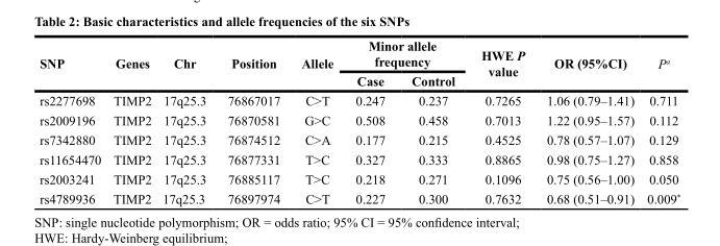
<table><thead><tr><td rowspan="2">SNP</td><td rowspan="2">Genes</td><td rowspan="2">Chr</td><td rowspan="2">Position</td><td rowspan="2">Allele</td><td colspan="2">Minor allele frequency</td><td rowspan="2">HWE P value</td><td rowspan="2">OR (95%CI)</td><td rowspan="2">P<sup>a</sup></td></tr><tr><td>Case</td><td>Control</td></tr></thead><tbody><tr><td>rs2277698</td><td>TIMP2</td><td>17q25.3</td><td>76867017</td><td>C&gt;T</td><td>0.247</td><td>0.237</td><td>0.7265</td><td>1.06 (0.79–1.41)</td><td>0.711</td></tr><tr><td>rs2009196</td><td>TIMP2</td><td>17q25.3</td><td>76870581</td><td>G&gt;C</td><td>0.508</td><td>0.458</td><td>0.7013</td><td>1.22 (0.95–1.57)</td><td>0.112</td></tr><tr><td>rs7342880</td><td>TIMP2</td><td>17q25.3</td><td>76874512</td><td>C&gt;A</td><td>0.177</td><td>0.215</td><td>0.4525</td><td>0.78 (0.57–1.07)</td><td>0.129</td></tr><tr><td>rs11654470</td><td>TIMP2</td><td>17q25.3</td><td>76877331</td><td>T&gt;C</td><td>0.327</td><td>0.333</td><td>0.8865</td><td>0.98 (0.75–1.27)</td><td>0.858</td></tr><tr><td>rs2003241</td><td>TIMP2</td><td>17q25.3</td><td>76885117</td><td>T&gt;C</td><td>0.218</td><td>0.271</td><td>0.1096</td><td>0.75 (0.56–1.00)</td><td>0.050</td></tr><tr><td>rs4789936</td><td>TIMP2</td><td>17q25.3</td><td>76897974</td><td>C&gt;T</td><td>0.227</td><td>0.300</td><td>0.7632</td><td>0.68 (0.51–0.91)</td><td>0.009*</td></tr></tbody></table>